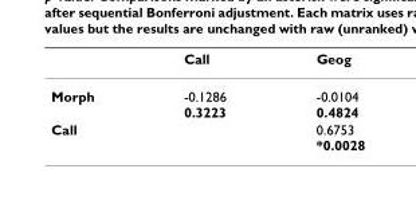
<table><thead><tr><td></td><td>Call</td><td>Geog</td></tr></thead><tbody><tr><td>Morph</td><td>-0.1286 0.3223</td><td>-0.0104 0.4824</td></tr><tr><td>Call</td><td></td><td>0.6753 *0.0028</td></tr></tbody></table>